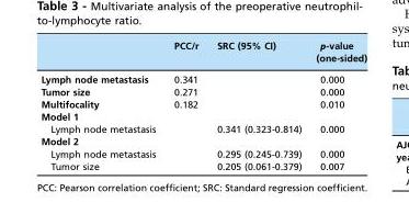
<table><thead><tr><td></td><td>PCC/r</td><td>SRC (95% CI)</td><td>p-value (one-sided)</td></tr></thead><tbody><tr><td>Lymph node metastasis</td><td>0.341</td><td></td><td>0.000</td></tr><tr><td>Tumor size</td><td>0.271</td><td></td><td>0.000</td></tr><tr><td>Multifocality</td><td>0.182</td><td></td><td>0.010</td></tr><tr><td colspan="4">Model 1</td></tr><tr><td>Lymph node metastasis</td><td></td><td>0.341 (0.323-0.814)</td><td>0.000</td></tr><tr><td colspan="4">Model 2</td></tr><tr><td>Lymph node metastasis</td><td></td><td>0.295 (0.245-0.739)</td><td>0.000</td></tr><tr><td>Tumor size</td><td></td><td>0.205 (0.061-0.379)</td><td>0.007</td></tr></tbody></table>